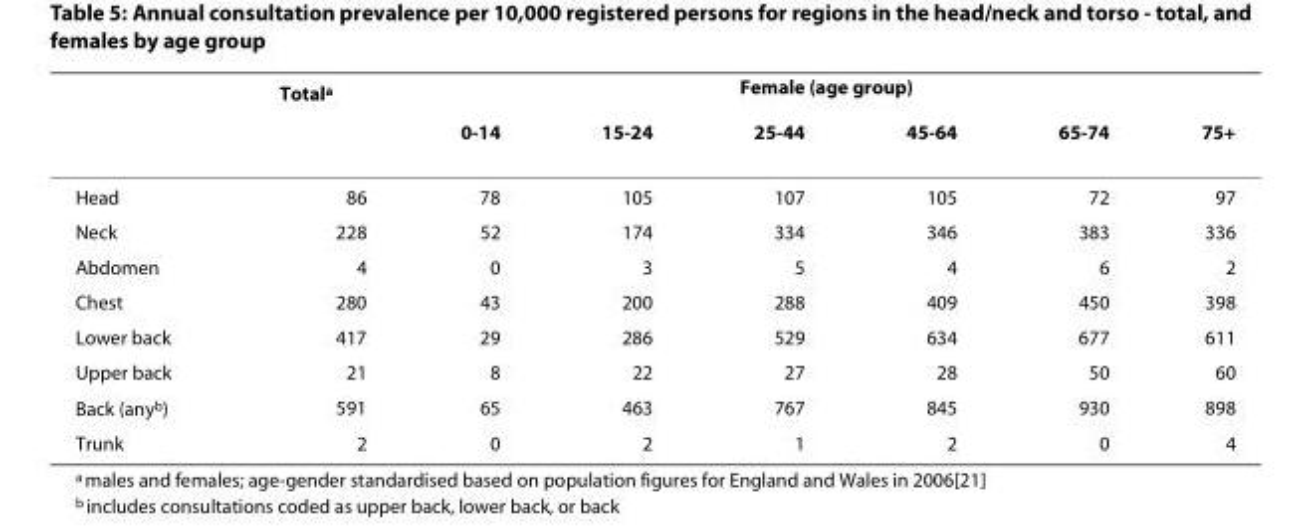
<table><thead><tr><td rowspan="2"></td><td rowspan="2">Total<sup>a</sup></td><td colspan="6">Female (age group)</td></tr><tr><td>0-14</td><td>15-24</td><td>25-44</td><td>45-64</td><td>65-74</td><td>75+</td></tr></thead><tbody><tr><td>Head</td><td>86</td><td>78</td><td>105</td><td>107</td><td>105</td><td>72</td><td>97</td></tr><tr><td>Neck</td><td>228</td><td>52</td><td>174</td><td>334</td><td>346</td><td>383</td><td>336</td></tr><tr><td>Abdomen</td><td>4</td><td>0</td><td>3</td><td>5</td><td>4</td><td>6</td><td>2</td></tr><tr><td>Chest</td><td>280</td><td>43</td><td>200</td><td>288</td><td>409</td><td>450</td><td>398</td></tr><tr><td>Lower back</td><td>417</td><td>29</td><td>286</td><td>529</td><td>634</td><td>677</td><td>611</td></tr><tr><td>Upper back</td><td>21</td><td>8</td><td>22</td><td>27</td><td>28</td><td>50</td><td>60</td></tr><tr><td>Back (any<sup>b</sup>)</td><td>591</td><td>65</td><td>463</td><td>767</td><td>845</td><td>930</td><td>898</td></tr><tr><td>Trunk</td><td>2</td><td>0</td><td>2</td><td>1</td><td>2</td><td>0</td><td>4</td></tr></tbody></table>